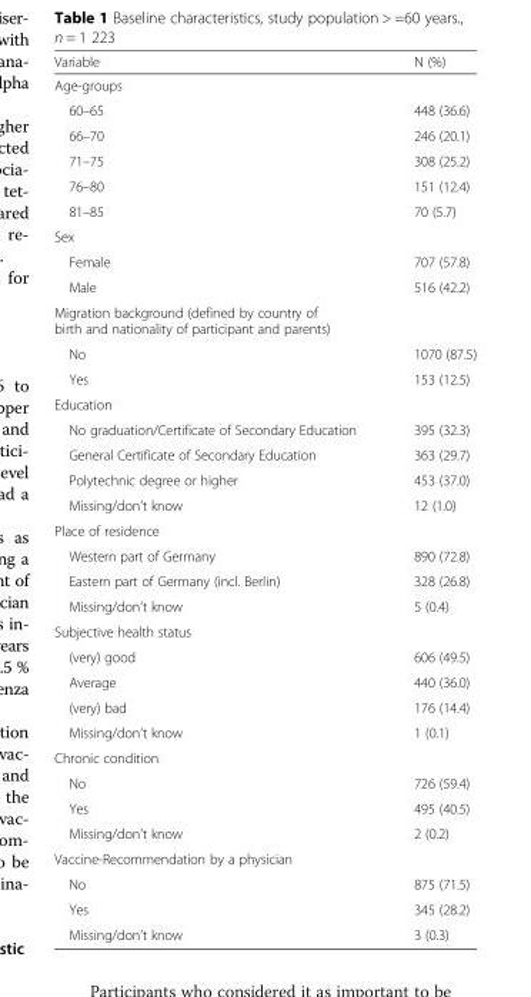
<table><thead><tr><td>Variable</td><td>N (%)</td></tr></thead><tbody><tr><td colspan="2">Age-groups</td></tr><tr><td>60–65</td><td>448 (36.6)</td></tr><tr><td>66–70</td><td>246 (20.1)</td></tr><tr><td>71–75</td><td>308 (25.2)</td></tr><tr><td>76–80</td><td>151 (12.4)</td></tr><tr><td>81–85</td><td>70 (5.7)</td></tr><tr><td colspan="2">Sex</td></tr><tr><td>Female</td><td>707 (57.8)</td></tr><tr><td>Male</td><td>516 (42.2)</td></tr><tr><td colspan="2">Migration background (defined by country of birth and nationality of participant and parents)</td></tr><tr><td>No</td><td>1070 (87.5)</td></tr><tr><td>Yes</td><td>153 (12.5)</td></tr><tr><td colspan="2">Education</td></tr><tr><td>No graduation/Certificate of Secondary Education</td><td>395 (32.3)</td></tr><tr><td>General Certificate of Secondary Education</td><td>363 (29.7)</td></tr><tr><td>Polytechnic degree or higher</td><td>453 (37.0)</td></tr><tr><td>Missing/don’t know</td><td>12 (1.0)</td></tr><tr><td colspan="2">Place of residence</td></tr><tr><td>Western part of Germany</td><td>890 (72.8)</td></tr><tr><td>Eastern part of Germany (incl. Berlin)</td><td>328 (26.8)</td></tr><tr><td>Missing/don’t know</td><td>5 (0.4)</td></tr><tr><td colspan="2">Subjective health status</td></tr><tr><td>(very) good</td><td>606 (49.5)</td></tr><tr><td>Average</td><td>440 (36.0)</td></tr><tr><td>(very) bad</td><td>176 (14.4)</td></tr><tr><td>Missing/don’t know</td><td>1 (0.1)</td></tr><tr><td colspan="2">Chronic condition</td></tr><tr><td>No</td><td>726 (59.4)</td></tr><tr><td>Yes</td><td>495 (40.5)</td></tr><tr><td>Missing/don’t know</td><td>2 (0.2)</td></tr><tr><td colspan="2">Vaccine-Recommendation by a physician</td></tr><tr><td>No</td><td>875 (71.5)</td></tr><tr><td>Yes</td><td>345 (28.2)</td></tr><tr><td>Missing/don’t know</td><td>3 (0.3)</td></tr></tbody></table>